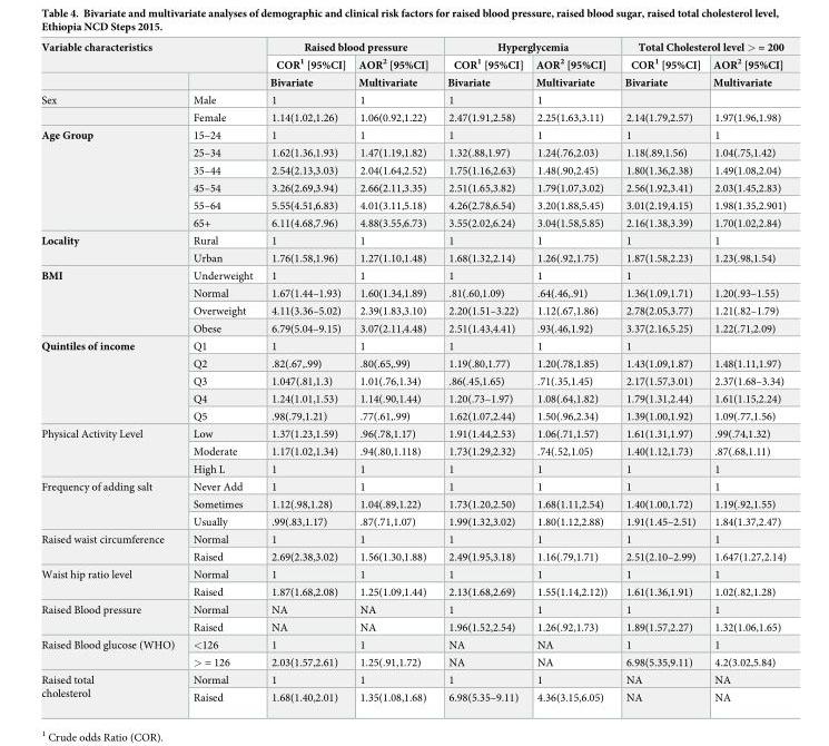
<table><thead><tr><td rowspan="2" colspan="2">Variable characteristics</td><td colspan="2">Raised blood pressure</td><td colspan="2">Hyperglycemia</td><td colspan="2">Total Cholesterol level &gt; = 200</td></tr><tr><td rowspan="2">COR<sup>1</sup> [95%CI] Bivariate</td><td rowspan="2">AOR<sup>2</sup> [95%CI] Multivariate</td><td rowspan="2">COR<sup>1</sup> [95%CI] Bivariate</td><td rowspan="2">AOR<sup>2</sup> [95%CI] Multivariate</td><td rowspan="2">COR<sup>1</sup> [95%CI] Bivariate</td><td rowspan="2">AOR<sup>2</sup> [95%CI] Multivariate</td></tr><tr><td></td><td></td></tr></thead><tbody><tr><td rowspan="2">Sex</td><td>Male</td><td>1</td><td>1</td><td>1</td><td>1</td><td></td><td></td></tr><tr><td>Female</td><td>1.14(1.02,1.26)</td><td>1.06(0.92,1.22)</td><td>2.47(1.91,2.58)</td><td>2.25(1.63,3.11)</td><td>2.14(1.79,2.57)</td><td>1.97(1.96,1.98)</td></tr><tr><td rowspan="6">Age Group</td><td>15–24</td><td>1</td><td>1</td><td>1</td><td>1</td><td>1</td><td>1</td></tr><tr><td>25–34</td><td>1.62(1.36,1.93)</td><td>1.47(1.19,1.82)</td><td>1.32(.88,1.97)</td><td>1.24(.76,2.03)</td><td>1.18(.89,1.56)</td><td>1.04(.75,1.42)</td></tr><tr><td>35–44</td><td>2.54(2.13,3.03)</td><td>2.04(1.64,2.52)</td><td>1.75(1.16,2.63)</td><td>1.48(.90,2.45)</td><td>1.80(1.36,2.38)</td><td>1.49(1.08,2.04)</td></tr><tr><td>45–54</td><td>3.26(2.69,3.94)</td><td>2.66(2.11,3.35)</td><td>2.51(1.65,3.82)</td><td>1.79(1.07,3.02)</td><td>2.56(1.92,3.41)</td><td>2.03(1.45,2.83)</td></tr><tr><td>55–64</td><td>5.55(4.51,6.83)</td><td>4.01(3.11,5.18)</td><td>4.26(2.78,6.54)</td><td>3.20(1.88,5.45)</td><td>3.01(2.19,4.15)</td><td>1.98(1.35,2.901)</td></tr><tr><td>65+</td><td>6.11(4.68,7.96)</td><td>4.88(3.55,6.73)</td><td>3.55(2.02,6.24)</td><td>3.04(1.58,5.85)</td><td>2.16(1.38,3.39)</td><td>1.70(1.02,2.84)</td></tr><tr><td rowspan="2">Locality</td><td>Rural</td><td>1</td><td>1</td><td>1</td><td>1</td><td>1</td><td>1</td></tr><tr><td>Urban</td><td>1.76(1.58,1.96)</td><td>1.27(1.10,1.48)</td><td>1.68(1.32,2.14)</td><td>1.26(.92,1.75)</td><td>1.87(1.58,2.23)</td><td>1.23(.98,1.54)</td></tr><tr><td rowspan="4">BMI</td><td>Underweight</td><td>1</td><td>1</td><td>1</td><td>1</td><td>1</td><td></td></tr><tr><td>Normal</td><td>1.67(1.44–1.93)</td><td>1.60(1.34,1.89)</td><td>.81(.60,1.09)</td><td>.64(.46,.91)</td><td>1.36(1.09,1.71)</td><td>1.20(.93–1.55)</td></tr><tr><td>Overweight</td><td>4.11(3.36–5.02)</td><td>2.39(1.83,3.10)</td><td>2.20(1.51–3.22)</td><td>1.12(.67,1.86)</td><td>2.78(2.05,3.77)</td><td>1.21(.82–1.79)</td></tr><tr><td>Obese</td><td>6.79(5.04–9.15)</td><td>3.07(2.11,4.48)</td><td>2.51(1.43,4.41)</td><td>.93(.46,1.92)</td><td>3.37(2.16,5.25)</td><td>1.22(.71,2.09)</td></tr><tr><td rowspan="5">Quintiles of income</td><td>Q1</td><td>1</td><td>1</td><td>1</td><td>1</td><td>1</td><td></td></tr><tr><td>Q2</td><td>.82(.67,.99)</td><td>.80(.65,.99)</td><td>1.19(.80,1.77)</td><td>1.20(.78,1.85)</td><td>1.43(1.09,1.87)</td><td>1.48(1.11,1.97)</td></tr><tr><td>Q3</td><td>1.047(.81,1.3)</td><td>1.01(.76,1.34)</td><td>.86(.45,1.65)</td><td>.71(.35,1.45)</td><td>2.17(1.57,3.01)</td><td>2.37(1.68–3.34)</td></tr><tr><td>Q4</td><td>1.24(1.01,1.53)</td><td>1.14(.90,1.44)</td><td>1.20(.73–1.97)</td><td>1.08(.64,1.82)</td><td>1.79(1.31,2.44)</td><td>1.61(1.15,2.24)</td></tr><tr><td>Q5</td><td>.98(.79,1.21)</td><td>.77(.61,.99)</td><td>1.62(1.07,2.44)</td><td>1.50(.96,2.34)</td><td>1.39(1.00,1.92)</td><td>1.09(.77,1.56)</td></tr><tr><td rowspan="3">Physical Activity Level</td><td>Low</td><td>1.37(1.23,1.59)</td><td>.96(.78,1.17)</td><td>1.91(1.44,2.53)</td><td>1.06(.71,1.57)</td><td>1.61(1.31,1.97)</td><td>.99(.74,1.32)</td></tr><tr><td>Moderate</td><td>1.17(1.02,1.34)</td><td>.94(.80,1.118)</td><td>1.73(1.29,2.32)</td><td>.74(.52,1.05)</td><td>1.40(1.12,1.73)</td><td>.87(.68,1.11)</td></tr><tr><td>High L</td><td>1</td><td>1</td><td>1</td><td>1</td><td>1</td><td>1</td></tr><tr><td rowspan="3">Frequency of adding salt</td><td>Never Add</td><td>1</td><td>1</td><td>1</td><td>1</td><td>1</td><td>1</td></tr><tr><td>Sometimes</td><td>1.12(.98,1.28)</td><td>1.04(.89,1.22)</td><td>1.73(1.20,2.50)</td><td>1.68(1.11,2.54)</td><td>1.40(1.00,1.72)</td><td>1.19(.92,1.55)</td></tr><tr><td>Usually</td><td>.99(.83,1.17)</td><td>.87(.71,1.07)</td><td>1.99(1.32,3.02)</td><td>1.80(1.12,2.88)</td><td>1.91(1.45–2.51)</td><td>1.84(1.37,2.47)</td></tr><tr><td rowspan="2">Raised waist circumference</td><td>Normal</td><td>1</td><td>1</td><td>1</td><td>1</td><td>1</td><td>1</td></tr><tr><td>Raised</td><td>2.69(2.38,3.02)</td><td>1.56(1.30,1.88)</td><td>2.49(1.95,3.18)</td><td>1.16(.79,1.71)</td><td>2.51(2.10–2.99)</td><td>1.647(1.27,2.14)</td></tr><tr><td rowspan="2">Waist hip ratio level</td><td>Normal</td><td>1</td><td>1</td><td>1</td><td>1</td><td>1</td><td>1</td></tr><tr><td>Raised</td><td>1.87(1.68,2.08)</td><td>1.25(1.09,1.44)</td><td>2.13(1.68,2.69)</td><td>1.55(1.14,2.12))</td><td>1.61(1.36,1.91)</td><td>1.02(.82,1.28)</td></tr><tr><td rowspan="2">Raised Blood pressure</td><td>Normal</td><td>NA</td><td>NA</td><td>1</td><td>1</td><td>1</td><td>1</td></tr><tr><td>Raised</td><td>NA</td><td>NA</td><td>1.96(1.52,2.54)</td><td>1.26(.92,1.73)</td><td>1.89(1.57,2.27)</td><td>1.32(1.06,1.65)</td></tr><tr><td rowspan="2">Raised Blood glucose (WHO)</td><td>&lt;126</td><td>1</td><td>1</td><td>NA</td><td>NA</td><td>1</td><td>1</td></tr><tr><td>&gt; = 126</td><td>2.03(1.57,2.61)</td><td>1.25(.91,1.72)</td><td>NA</td><td>NA</td><td>6.98(5.35,9.11)</td><td>4.2(3.02,5.84)</td></tr><tr><td rowspan="2">Raised total cholesterol</td><td>Normal</td><td>1</td><td>1</td><td>1</td><td>1</td><td>NA</td><td>NA</td></tr><tr><td>Raised</td><td>1.68(1.40,2.01)</td><td>1.35(1.08,1.68)</td><td>6.98(5.35–9.11)</td><td>4.36(3.15,6.05)</td><td>NA</td><td>NA</td></tr></tbody></table>